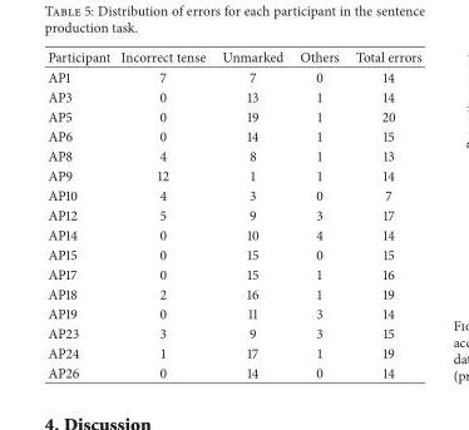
<table><thead><tr><td>Participant</td><td>Incorrect tense</td><td>Unmarked</td><td>Others</td><td>Total errors</td></tr></thead><tbody><tr><td>AP1</td><td>7</td><td>7</td><td>0</td><td>14</td></tr><tr><td>AP3</td><td>0</td><td>13</td><td>1</td><td>14</td></tr><tr><td>AP5</td><td>0</td><td>19</td><td>1</td><td>20</td></tr><tr><td>AP6</td><td>0</td><td>14</td><td>1</td><td>15</td></tr><tr><td>AP8</td><td>4</td><td>8</td><td>1</td><td>13</td></tr><tr><td>AP9</td><td>12</td><td>1</td><td>1</td><td>14</td></tr><tr><td>AP10</td><td>4</td><td>3</td><td>0</td><td>7</td></tr><tr><td>AP12</td><td>5</td><td>9</td><td>3</td><td>17</td></tr><tr><td>AP14</td><td>0</td><td>10</td><td>4</td><td>14</td></tr><tr><td>AP15</td><td>0</td><td>15</td><td>0</td><td>15</td></tr><tr><td>AP17</td><td>0</td><td>15</td><td>1</td><td>16</td></tr><tr><td>AP18</td><td>2</td><td>16</td><td>1</td><td>19</td></tr><tr><td>AP19</td><td>0</td><td>11</td><td>3</td><td>14</td></tr><tr><td>AP23</td><td>3</td><td>9</td><td>3</td><td>15</td></tr><tr><td>AP24</td><td>1</td><td>17</td><td>1</td><td>19</td></tr><tr><td>AP26</td><td>0</td><td>14</td><td>0</td><td>14</td></tr></tbody></table>